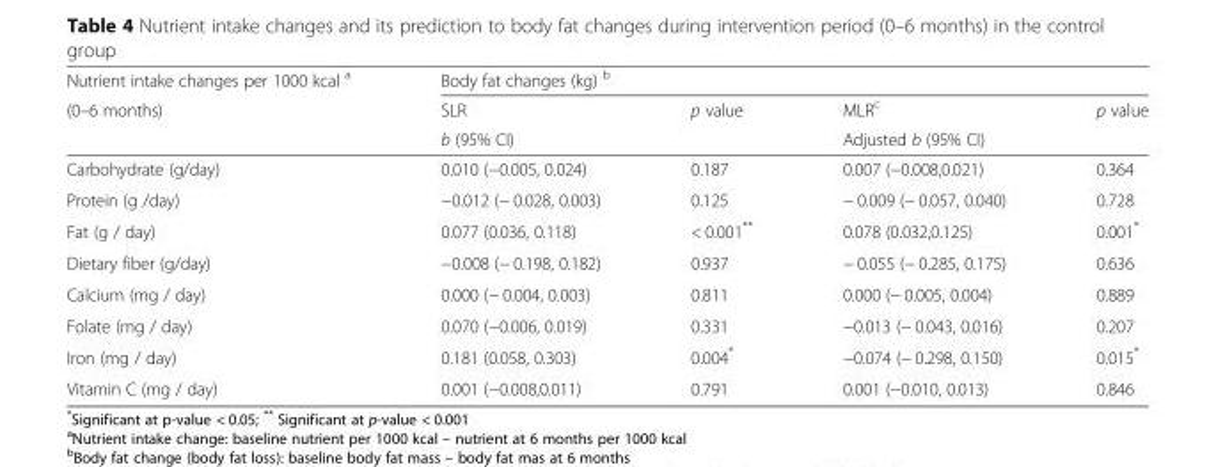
<table><thead><tr><td rowspan="3">Nutrient intake changes per 1000 kcal <sup>a</sup> (0–6 months)</td><td colspan="4">Body fat changes (kg) <sup>b</sup></td></tr><tr><td rowspan="2">SLR b (95% CI)</td><td rowspan="2">p value</td><td rowspan="2">MLR<sup>c</sup> Adjusted b (95% CI)</td><td rowspan="2">p value</td></tr><tr></tr></thead><tbody><tr><td>Carbohydrate (g/day)</td><td>0.010 (−0.005, 0.024)</td><td>0.187</td><td>0.007 (−0.008,0.021)</td><td>0.364</td></tr><tr><td>Protein (g /day)</td><td>−0.012 (− 0.028, 0.003)</td><td>0.125</td><td>− 0.009 (− 0.057, 0.040)</td><td>0.728</td></tr><tr><td>Fat (g / day)</td><td>0.077 (0.036, 0.118)</td><td>&lt; 0.001**</td><td>0.078 (0.032,0.125)</td><td>0.001*</td></tr><tr><td>Dietary fiber (g/day)</td><td>−0.008 (− 0.198, 0.182)</td><td>0.937</td><td>− 0.055 (− 0.285, 0.175)</td><td>0.636</td></tr><tr><td>Calcium (mg / day)</td><td>0.000 (− 0.004, 0.003)</td><td>0.811</td><td>0.000 (− 0.005, 0.004)</td><td>0.889</td></tr><tr><td>Folate (mg / day)</td><td>0.070 (−0.006, 0.019)</td><td>0.331</td><td>−0.013 (− 0.043, 0.016)</td><td>0.207</td></tr><tr><td>Iron (mg / day)</td><td>0.181 (0.058, 0.303)</td><td>0.004*</td><td>−0.074 (− 0.298, 0.150)</td><td>0.015*</td></tr><tr><td>Vitamin C (mg / day)</td><td>0.001 (−0.008,0.011)</td><td>0.791</td><td>0.001 (−0.010, 0.013)</td><td>0.846</td></tr></tbody></table>